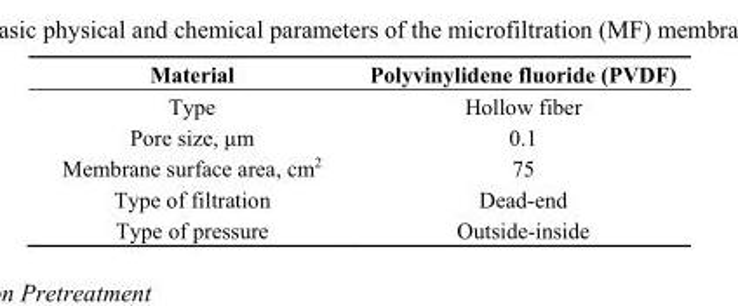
<table><thead><tr><td>Material</td><td>Polyvinylidene fluoride (PVDF)</td></tr></thead><tbody><tr><td>Type</td><td>Hollow fiber</td></tr><tr><td>Pore size, μm</td><td>0.1</td></tr><tr><td>Membrane surface area, cm<sup>2</sup></td><td>75</td></tr><tr><td>Type of filtration</td><td>Dead-end</td></tr><tr><td>Type of pressure</td><td>Outside-inside</td></tr></tbody></table>